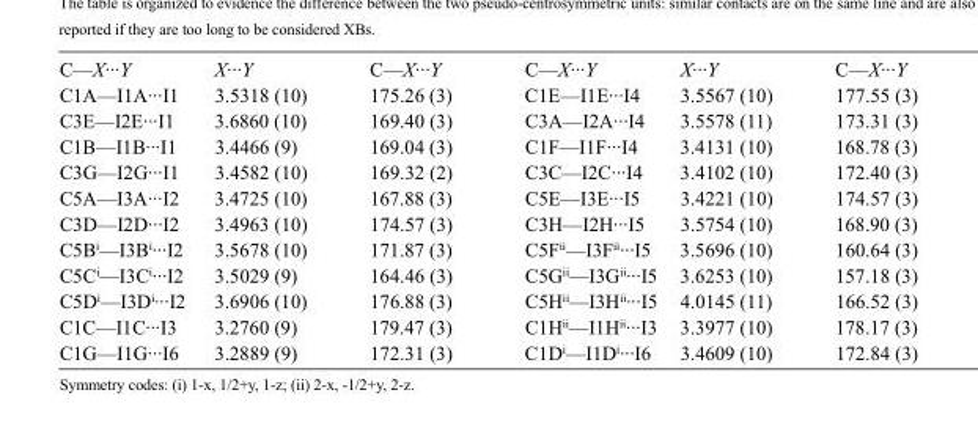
<table><tbody><tr><td>C—X···Y</td><td>X···Y</td><td>C—X···Y</td><td>C—X···Y</td><td>X···Y</td><td>C—X···Y</td></tr><tr><td>C1A—I1A···I1</td><td>3.5318 (10)</td><td>175.26 (3)</td><td>C1E—I1E···I4</td><td>3.5567 (10)</td><td>177.55 (3)</td></tr><tr><td>C3E—I2E···I1</td><td>3.6860 (10)</td><td>169.40 (3)</td><td>C3A—I2A···I4</td><td>3.5578 (11)</td><td>173.31 (3)</td></tr><tr><td>C1B—I1B···I1</td><td>3.4466 (9)</td><td>169.04 (3)</td><td>C1F—I1F···I4</td><td>3.4131 (10)</td><td>168.78 (3)</td></tr><tr><td>C3G—I2G···I1</td><td>3.4582 (10)</td><td>169.32 (2)</td><td>C3C—I2C···I4</td><td>3.4102 (10)</td><td>172.40 (3)</td></tr><tr><td>C5A—I3A···I2</td><td>3.4725 (10)</td><td>167.88 (3)</td><td>C5E—I3E···I5</td><td>3.4221 (10)</td><td>174.57 (3)</td></tr><tr><td>C3D—I2D···I2</td><td>3.4963 (10)</td><td>174.57 (3)</td><td>C3H—I2H···I5</td><td>3.5754 (10)</td><td>168.90 (3)</td></tr><tr><td>C5B<sup>i</sup>—I3B<sup>i</sup>···I2</td><td>3.5678 (10)</td><td>171.87 (3)</td><td>C5F<sup>ii</sup>—I3F<sup>ii</sup>···I5</td><td>3.5696 (10)</td><td>160.64 (3)</td></tr><tr><td>C5C<sup>i</sup>—I3C<sup>i</sup>···I2</td><td>3.5029 (9)</td><td>164.46 (3)</td><td>C5G<sup>ii</sup>—I3G<sup>ii</sup>···I5</td><td>3.6253 (10)</td><td>157.18 (3)</td></tr><tr><td>C5D<sup>i</sup>—I3D<sup>i</sup>···I2</td><td>3.6906 (10)</td><td>176.88 (3)</td><td>C5H<sup>ii</sup>—I3H<sup>ii</sup>···I5</td><td>4.0145 (11)</td><td>166.52 (3)</td></tr><tr><td>C1C—I1C···I3</td><td>3.2760 (9)</td><td>179.47 (3)</td><td>C1H<sup>ii</sup>—I1H<sup>ii</sup>···I3</td><td>3.3977 (10)</td><td>178.17 (3)</td></tr><tr><td>C1G—I1G···I6</td><td>3.2889 (9)</td><td>172.31 (3)</td><td>C1D<sup>i</sup>—I1D<sup>i</sup>···I6</td><td>3.4609 (10)</td><td>172.84 (3)</td></tr></tbody></table>